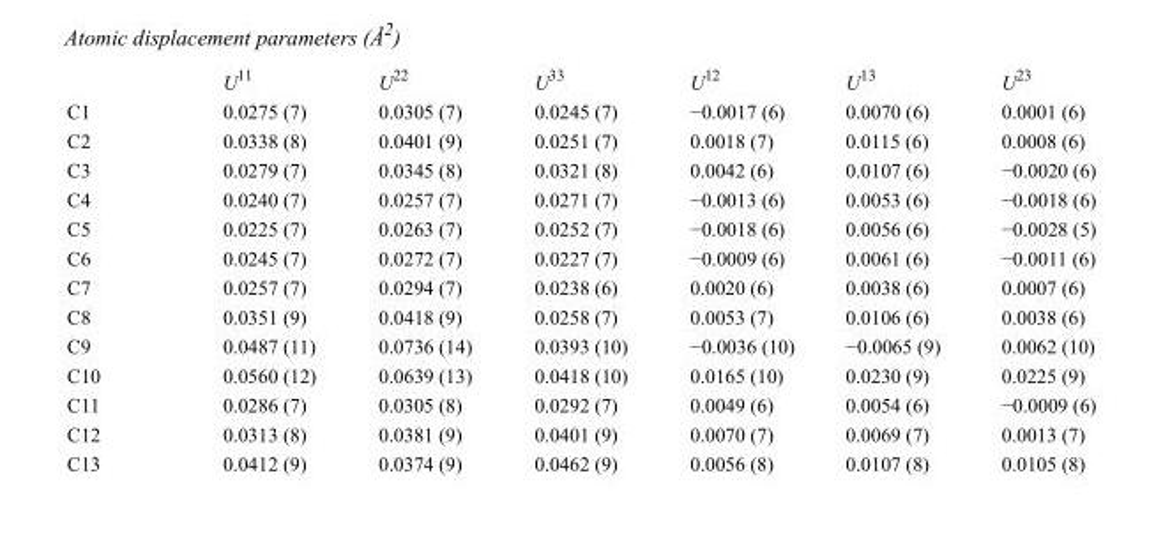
<table><thead><tr><td></td><td>U<sup>11</sup></td><td>U<sup>22</sup></td><td>U<sup>33</sup></td><td>U<sup>12</sup></td><td>U<sup>13</sup></td><td>U<sup>23</sup></td></tr></thead><tbody><tr><td>C1</td><td>0.0275 (7)</td><td>0.0305 (7)</td><td>0.0245 (7)</td><td>−0.0017 (6)</td><td>0.0070 (6)</td><td>0.0001 (6)</td></tr><tr><td>C2</td><td>0.0338 (8)</td><td>0.0401 (9)</td><td>0.0251 (7)</td><td>0.0018 (7)</td><td>0.0115 (6)</td><td>0.0008 (6)</td></tr><tr><td>C3</td><td>0.0279 (7)</td><td>0.0345 (8)</td><td>0.0321 (8)</td><td>0.0042 (6)</td><td>0.0107 (6)</td><td>−0.0020 (6)</td></tr><tr><td>C4</td><td>0.0240 (7)</td><td>0.0257 (7)</td><td>0.0271 (7)</td><td>−0.0013 (6)</td><td>0.0053 (6)</td><td>−0.0018 (6)</td></tr><tr><td>C5</td><td>0.0225 (7)</td><td>0.0263 (7)</td><td>0.0252 (7)</td><td>−0.0018 (6)</td><td>0.0056 (6)</td><td>−0.0028 (5)</td></tr><tr><td>C6</td><td>0.0245 (7)</td><td>0.0272 (7)</td><td>0.0227 (7)</td><td>−0.0009 (6)</td><td>0.0061 (6)</td><td>−0.0011 (6)</td></tr><tr><td>C7</td><td>0.0257 (7)</td><td>0.0294 (7)</td><td>0.0238 (6)</td><td>0.0020 (6)</td><td>0.0038 (6)</td><td>0.0007 (6)</td></tr><tr><td>C8</td><td>0.0351 (9)</td><td>0.0418 (9)</td><td>0.0258 (7)</td><td>0.0053 (7)</td><td>0.0106 (6)</td><td>0.0038 (6)</td></tr><tr><td>C9</td><td>0.0487 (11)</td><td>0.0736 (14)</td><td>0.0393 (10)</td><td>−0.0036 (10)</td><td>−0.0065 (9)</td><td>0.0062 (10)</td></tr><tr><td>C10</td><td>0.0560 (12)</td><td>0.0639 (13)</td><td>0.0418 (10)</td><td>0.0165 (10)</td><td>0.0230 (9)</td><td>0.0225 (9)</td></tr><tr><td>C11</td><td>0.0286 (7)</td><td>0.0305 (8)</td><td>0.0292 (7)</td><td>0.0049 (6)</td><td>0.0054 (6)</td><td>−0.0009 (6)</td></tr><tr><td>C12</td><td>0.0313 (8)</td><td>0.0381 (9)</td><td>0.0401 (9)</td><td>0.0070 (7)</td><td>0.0069 (7)</td><td>0.0013 (7)</td></tr><tr><td>C13</td><td>0.0412 (9)</td><td>0.0374 (9)</td><td>0.0462 (9)</td><td>0.0056 (8)</td><td>0.0107 (8)</td><td>0.0105 (8)</td></tr></tbody></table>